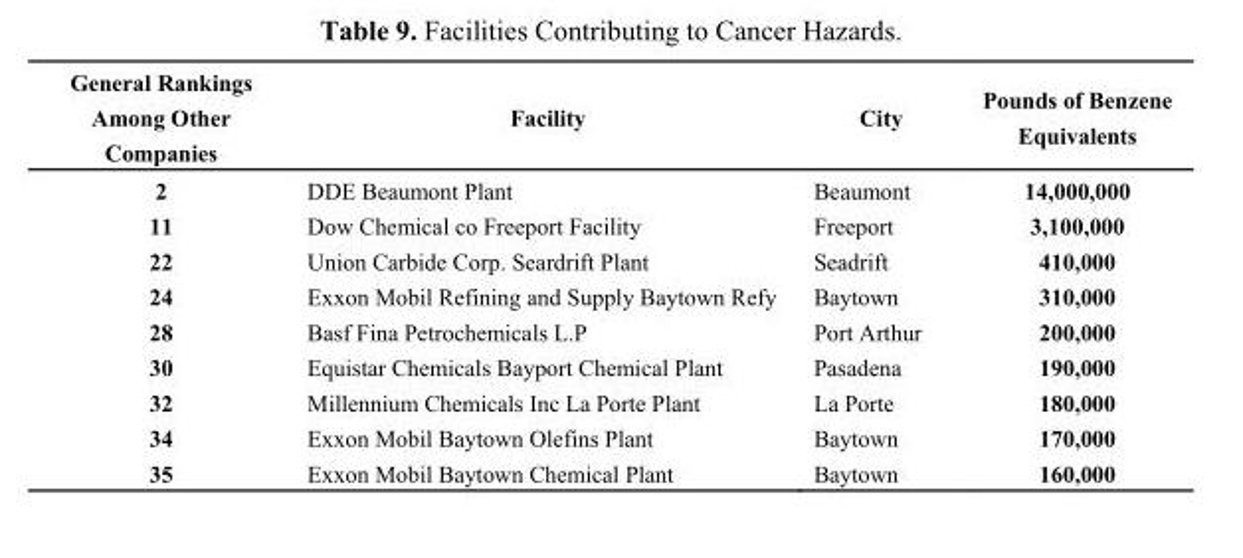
<table><thead><tr><td>General Rankings Among Other Companies</td><td>Facility</td><td>City</td><td>Pounds of Benzene Equivalents</td></tr></thead><tbody><tr><td>2</td><td>DDE Beaumont Plant</td><td>Beaumont</td><td>14,000,000</td></tr><tr><td>11</td><td>Dow Chemical co Freeport Facility</td><td>Freeport</td><td>3,100,000</td></tr><tr><td>22</td><td>Union Carbide Corp. Seardrift Plant</td><td>Seadrift</td><td>410,000</td></tr><tr><td>24</td><td>Exxon Mobil Refining and Supply Baytown Refy</td><td>Baytown</td><td>310,000</td></tr><tr><td>28</td><td>Basf Fina Petrochemicals L.P</td><td>Port Arthur</td><td>200,000</td></tr><tr><td>30</td><td>Equistar Chemicals Bayport Chemical Plant</td><td>Pasadena</td><td>190,000</td></tr><tr><td>32</td><td>Millennium Chemicals Inc La Porte Plant</td><td>La Porte</td><td>180,000</td></tr><tr><td>34</td><td>Exxon Mobil Baytown Olefins Plant</td><td>Baytown</td><td>170,000</td></tr><tr><td>35</td><td>Exxon Mobil Baytown Chemical Plant</td><td>Baytown</td><td>160,000</td></tr></tbody></table>